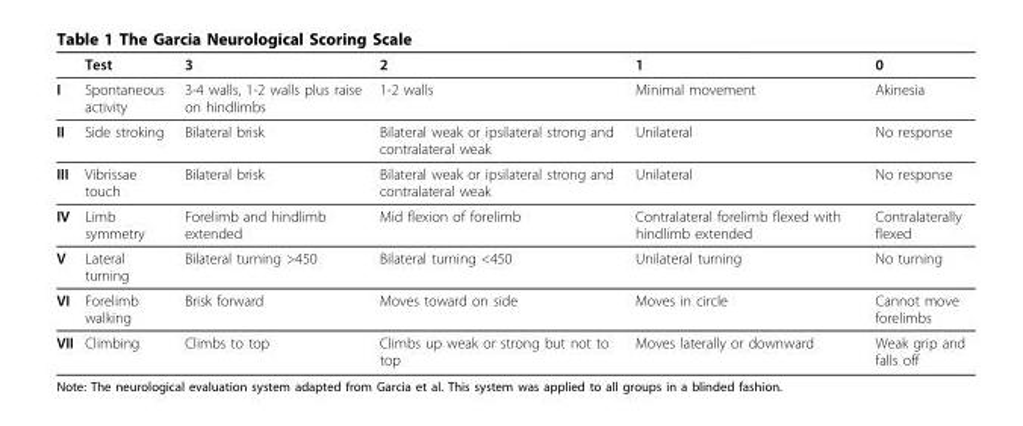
<table><thead><tr><td></td><td>Test</td><td>3</td><td>2</td><td>1</td><td>0</td></tr></thead><tbody><tr><td>I</td><td>Spontaneous activity</td><td>3-4 walls, 1-2 walls plus raise on hindlimbs</td><td>1-2 walls</td><td>Minimal movement</td><td>Akinesia</td></tr><tr><td>II</td><td>Side stroking</td><td>Bilateral brisk</td><td>Bilateral weak or ipsilateral strong and contralateral weak</td><td>Unilateral</td><td>No response</td></tr><tr><td>III</td><td>Vibrissae touch</td><td>Bilateral brisk</td><td>Bilateral weak or ipsilateral strong and contralateral weak</td><td>Unilateral</td><td>No response</td></tr><tr><td>IV</td><td>Limb symmetry</td><td>Forelimb and hindlimb extended</td><td>Mid flexion of forelimb</td><td>Contralateral forelimb flexed with hindlimb extended</td><td>Contralaterally flexed</td></tr><tr><td>V</td><td>Lateral turning</td><td>Bilateral turning &gt;450</td><td>Bilateral turning &lt;450</td><td>Unilateral turning</td><td>No turning</td></tr><tr><td>VI</td><td>Forelimb walking</td><td>Brisk forward</td><td>Moves toward on side</td><td>Moves in circle</td><td>Cannot move forelimbs</td></tr><tr><td>VII</td><td>Climbing</td><td>Climbs to top</td><td>Climbs up weak or strong but not to top</td><td>Moves laterally or downward</td><td>Weak grip and falls off</td></tr></tbody></table>